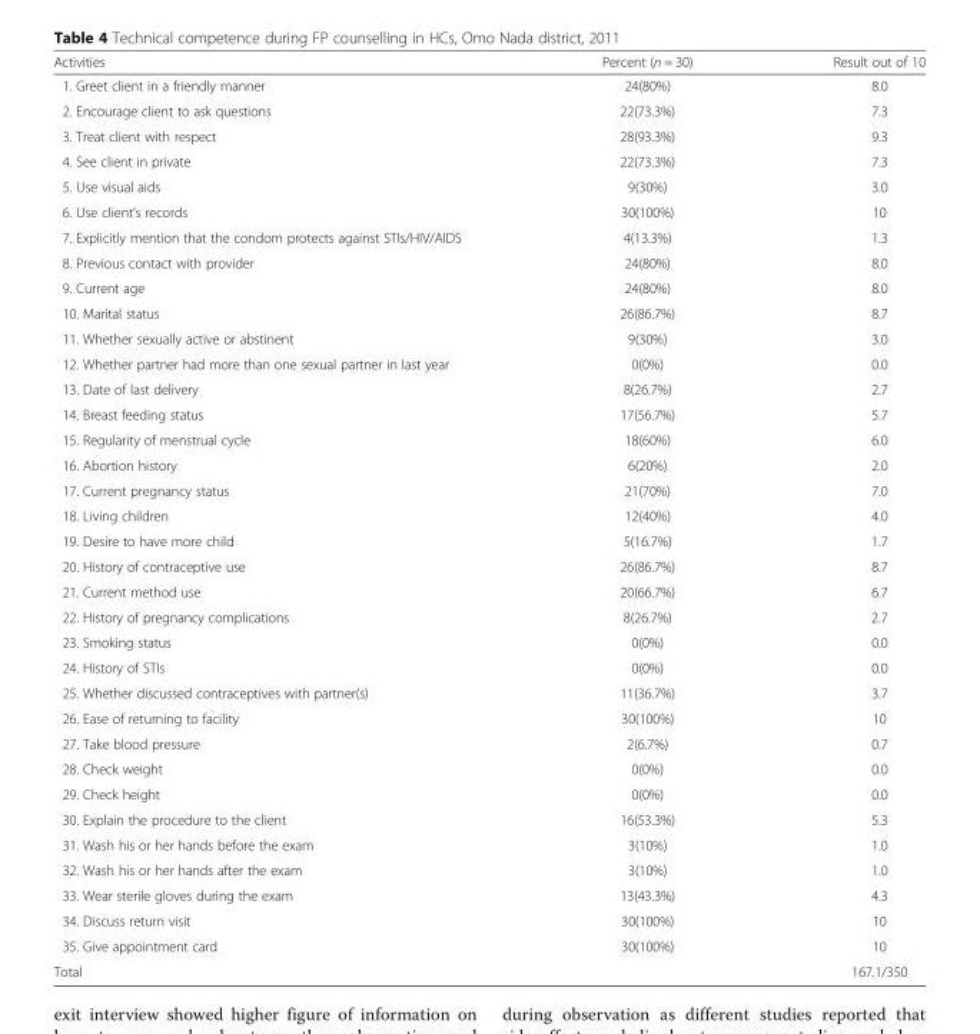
<table><thead><tr><td>Activities</td><td>Percent (n = 30)</td><td>Result out of 10</td></tr></thead><tbody><tr><td>1. Greet client in a friendly manner</td><td>24(80%)</td><td>8.0</td></tr><tr><td>2. Encourage client to ask questions</td><td>22(73.3%)</td><td>7.3</td></tr><tr><td>3. Treat client with respect</td><td>28(93.3%)</td><td>9.3</td></tr><tr><td>4. See client in private</td><td>22(73.3%)</td><td>7.3</td></tr><tr><td>5. Use visual aids</td><td>9(30%)</td><td>3.0</td></tr><tr><td>6. Use client’s records</td><td>30(100%)</td><td>10</td></tr><tr><td>7. Explicitly mention that the condom protects against STIs/HIV/AIDS</td><td>4(13.3%)</td><td>1.3</td></tr><tr><td>8. Previous contact with provider</td><td>24(80%)</td><td>8.0</td></tr><tr><td>9. Current age</td><td>24(80%)</td><td>8.0</td></tr><tr><td>10. Marital status</td><td>26(86.7%)</td><td>8.7</td></tr><tr><td>11. Whether sexually active or abstinent</td><td>9(30%)</td><td>3.0</td></tr><tr><td>12. Whether partner had more than one sexual partner in last year</td><td>0(0%)</td><td>0.0</td></tr><tr><td>13. Date of last delivery</td><td>8(26.7%)</td><td>2.7</td></tr><tr><td>14. Breast feeding status</td><td>17(56.7%)</td><td>5.7</td></tr><tr><td>15. Regularity of menstrual cycle</td><td>18(60%)</td><td>6.0</td></tr><tr><td>16. Abortion history</td><td>6(20%)</td><td>2.0</td></tr><tr><td>17. Current pregnancy status</td><td>21(70%)</td><td>7.0</td></tr><tr><td>18. Living children</td><td>12(40%)</td><td>4.0</td></tr><tr><td>19. Desire to have more child</td><td>5(16.7%)</td><td>1.7</td></tr><tr><td>20. History of contraceptive use</td><td>26(86.7%)</td><td>8.7</td></tr><tr><td>21. Current method use</td><td>20(66.7%)</td><td>6.7</td></tr><tr><td>22. History of pregnancy complications</td><td>8(26.7%)</td><td>2.7</td></tr><tr><td>23. Smoking status</td><td>0(0%)</td><td>0.0</td></tr><tr><td>24. History of STIs</td><td>0(0%)</td><td>0.0</td></tr><tr><td>25. Whether discussed contraceptives with partner(s)</td><td>11(36.7%)</td><td>3.7</td></tr><tr><td>26. Ease of returning to facility</td><td>30(100%)</td><td>10</td></tr><tr><td>27. Take blood pressure</td><td>2(6.7%)</td><td>0.7</td></tr><tr><td>28. Check weight</td><td>0(0%)</td><td>0.0</td></tr><tr><td>29. Check height</td><td>0(0%)</td><td>0.0</td></tr><tr><td>30. Explain the procedure to the client</td><td>16(53.3%)</td><td>5.3</td></tr><tr><td>31. Wash his or her hands before the exam</td><td>3(10%)</td><td>1.0</td></tr><tr><td>32. Wash his or her hands after the exam</td><td>3(10%)</td><td>1.0</td></tr><tr><td>33. Wear sterile gloves during the exam</td><td>13(43.3%)</td><td>4.3</td></tr><tr><td>34. Discuss return visit</td><td>30(100%)</td><td>10</td></tr><tr><td>35. Give appointment card</td><td>30(100%)</td><td>10</td></tr><tr><td>Total</td><td></td><td>167.1/350</td></tr></tbody></table>